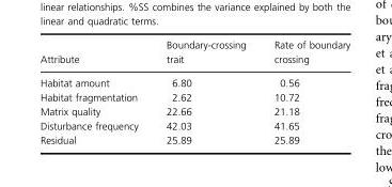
<table><thead><tr><td>Attribute</td><td>Boundary-crossing trait</td><td>Rate of boundary crossing</td></tr></thead><tbody><tr><td>Habitat amount</td><td>6.80</td><td>0.56</td></tr><tr><td>Habitat fragmentation</td><td>2.62</td><td>10.72</td></tr><tr><td>Matrix quality</td><td>22.66</td><td>21.18</td></tr><tr><td>Disturbance frequency</td><td>42.03</td><td>41.65</td></tr><tr><td>Residual</td><td>25.89</td><td>25.89</td></tr></tbody></table>